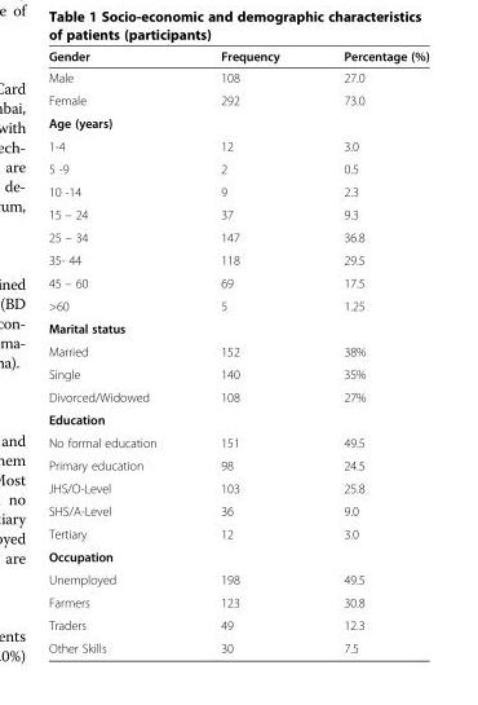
<table><thead><tr><td>Gender</td><td>Frequency</td><td>Percentage (%)</td></tr></thead><tbody><tr><td>Male</td><td>108</td><td>27.0</td></tr><tr><td>Female</td><td>292</td><td>73.0</td></tr><tr><td colspan="3">Age (years)</td></tr><tr><td>1-4</td><td>12</td><td>3.0</td></tr><tr><td>5 -9</td><td>2</td><td>0.5</td></tr><tr><td>10 -14</td><td>9</td><td>2.3</td></tr><tr><td>15 – 24</td><td>37</td><td>9.3</td></tr><tr><td>25 – 34</td><td>147</td><td>36.8</td></tr><tr><td>35- 44</td><td>118</td><td>29.5</td></tr><tr><td>45 – 60</td><td>69</td><td>17.5</td></tr><tr><td>&gt;60</td><td>5</td><td>1.25</td></tr><tr><td colspan="3">Marital status</td></tr><tr><td>Married</td><td>152</td><td>38%</td></tr><tr><td>Single</td><td>140</td><td>35%</td></tr><tr><td>Divorced/Widowed</td><td>108</td><td>27%</td></tr><tr><td colspan="3">Education</td></tr><tr><td>No formal education</td><td>151</td><td>49.5</td></tr><tr><td>Primary education</td><td>98</td><td>24.5</td></tr><tr><td>JHS/O-Level</td><td>103</td><td>25.8</td></tr><tr><td>SHS/A-Level</td><td>36</td><td>9.0</td></tr><tr><td>Tertiary</td><td>12</td><td>3.0</td></tr><tr><td colspan="3">Occupation</td></tr><tr><td>Unemployed</td><td>198</td><td>49.5</td></tr><tr><td>Farmers</td><td>123</td><td>30.8</td></tr><tr><td>Traders</td><td>49</td><td>12.3</td></tr><tr><td>Other Skills</td><td>30</td><td>7.5</td></tr></tbody></table>